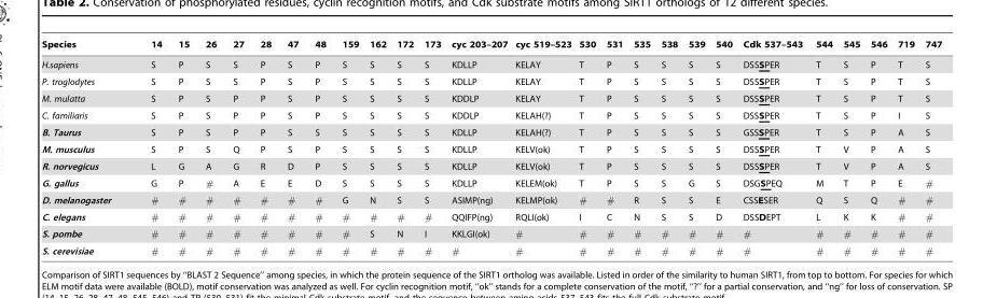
<table><thead><tr><td>Species</td><td>14</td><td>15</td><td>26</td><td>27</td><td>28</td><td>47</td><td>48</td><td>159</td><td>162</td><td>172</td><td>173</td><td>cyc 203–207</td><td>cyc 519–523</td><td>530</td><td>531</td><td>535</td><td>538</td><td>539</td><td>540</td><td>Cdk 537–543</td><td>544</td><td>545</td><td>546</td><td>719</td><td>747</td></tr></thead><tbody><tr><td>H.sapiens</td><td>S</td><td>P</td><td>S</td><td>S</td><td>P</td><td>S</td><td>P</td><td>S</td><td>S</td><td>S</td><td>S</td><td>KDLLP</td><td>KELAY</td><td>T</td><td>P</td><td>S</td><td>S</td><td>S</td><td>S</td><td>DSSSPER</td><td>T</td><td>S</td><td>P</td><td>T</td><td>S</td></tr><tr><td>P. troglodytes</td><td>S</td><td>P</td><td>S</td><td>S</td><td>P</td><td>S</td><td>P</td><td>S</td><td>S</td><td>S</td><td>S</td><td>KDLLP</td><td>KELAY</td><td>T</td><td>P</td><td>S</td><td>S</td><td>S</td><td>S</td><td>DSSSPER</td><td>T</td><td>S</td><td>P</td><td>T</td><td>S</td></tr><tr><td>M. mulatta</td><td>S</td><td>P</td><td>S</td><td>P</td><td>P</td><td>S</td><td>P</td><td>S</td><td>S</td><td>S</td><td>S</td><td>KDDLP</td><td>KELAY</td><td>T</td><td>P</td><td>S</td><td>S</td><td>S</td><td>S</td><td>DSSSPER</td><td>T</td><td>S</td><td>P</td><td>T</td><td>S</td></tr><tr><td>C. familiaris</td><td>S</td><td>P</td><td>S</td><td>P</td><td>P</td><td>S</td><td>P</td><td>S</td><td>S</td><td>S</td><td>S</td><td>KDDLP</td><td>KELAH(?)</td><td>T</td><td>P</td><td>S</td><td>S</td><td>S</td><td>S</td><td>DSSSPER</td><td>T</td><td>S</td><td>P</td><td>I</td><td>S</td></tr><tr><td>B. Taurus</td><td>S</td><td>P</td><td>S</td><td>P</td><td>P</td><td>S</td><td>S</td><td>S</td><td>S</td><td>S</td><td>S</td><td>KDLLP</td><td>KELAH(?)</td><td>T</td><td>P</td><td>S</td><td>S</td><td>S</td><td>S</td><td>GSSSPER</td><td>T</td><td>S</td><td>P</td><td>A</td><td>S</td></tr><tr><td>M. musculus</td><td>S</td><td>P</td><td>S</td><td>Q</td><td>P</td><td>S</td><td>P</td><td>S</td><td>S</td><td>S</td><td>S</td><td>KDLLP</td><td>KELV(ok)</td><td>T</td><td>P</td><td>S</td><td>S</td><td>S</td><td>S</td><td>DSSSPER</td><td>T</td><td>V</td><td>P</td><td>A</td><td>S</td></tr><tr><td>R. norvegicus</td><td>L</td><td>G</td><td>A</td><td>G</td><td>R</td><td>D</td><td>P</td><td>S</td><td>S</td><td>S</td><td>S</td><td>KDLLP</td><td>KELV(ok)</td><td>T</td><td>P</td><td>S</td><td>S</td><td>S</td><td>S</td><td>DSSSPER</td><td>T</td><td>V</td><td>P</td><td>A</td><td>S</td></tr><tr><td>G. gallus</td><td>G</td><td>P</td><td>#</td><td>A</td><td>E</td><td>E</td><td>D</td><td>S</td><td>S</td><td>S</td><td>S</td><td>KDLLP</td><td>KELEM(ok)</td><td>T</td><td>P</td><td>S</td><td>S</td><td>G</td><td>S</td><td>DSGSPEQ</td><td>M</td><td>T</td><td>P</td><td>E</td><td>#</td></tr><tr><td>D. melanogaster</td><td>#</td><td>#</td><td>#</td><td>#</td><td>#</td><td>#</td><td>#</td><td>G</td><td>N</td><td>S</td><td>S</td><td>ASIMP(ng)</td><td>KELMP(ok)</td><td>#</td><td>#</td><td>R</td><td>S</td><td>S</td><td>E</td><td>CSSESER</td><td>Q</td><td>S</td><td>Q</td><td>#</td><td>#</td></tr><tr><td>C. elegans</td><td>#</td><td>#</td><td>#</td><td>#</td><td>#</td><td>#</td><td>#</td><td>#</td><td>#</td><td>#</td><td>#</td><td>QQIFP(ng)</td><td>RQLI(ok)</td><td>I</td><td>C</td><td>N</td><td>S</td><td>S</td><td>D</td><td>DSSDEPT</td><td>L</td><td>K</td><td>K</td><td>#</td><td>#</td></tr><tr><td>S. pombe</td><td>#</td><td>#</td><td>#</td><td>#</td><td>#</td><td>#</td><td>#</td><td>#</td><td>S</td><td>N</td><td>I</td><td>KKLGI(ok)</td><td>#</td><td>#</td><td>#</td><td>#</td><td>#</td><td>#</td><td>#</td><td>#</td><td>#</td><td>#</td><td>#</td><td>#</td><td>#</td></tr><tr><td>S. cerevisiae</td><td>#</td><td>#</td><td>#</td><td>#</td><td>#</td><td>#</td><td>#</td><td>#</td><td>#</td><td>#</td><td>#</td><td>#</td><td>#</td><td>#</td><td>#</td><td>#</td><td>#</td><td>#</td><td>#</td><td>#</td><td>#</td><td>#</td><td>#</td><td>#</td><td>#</td></tr></tbody></table>